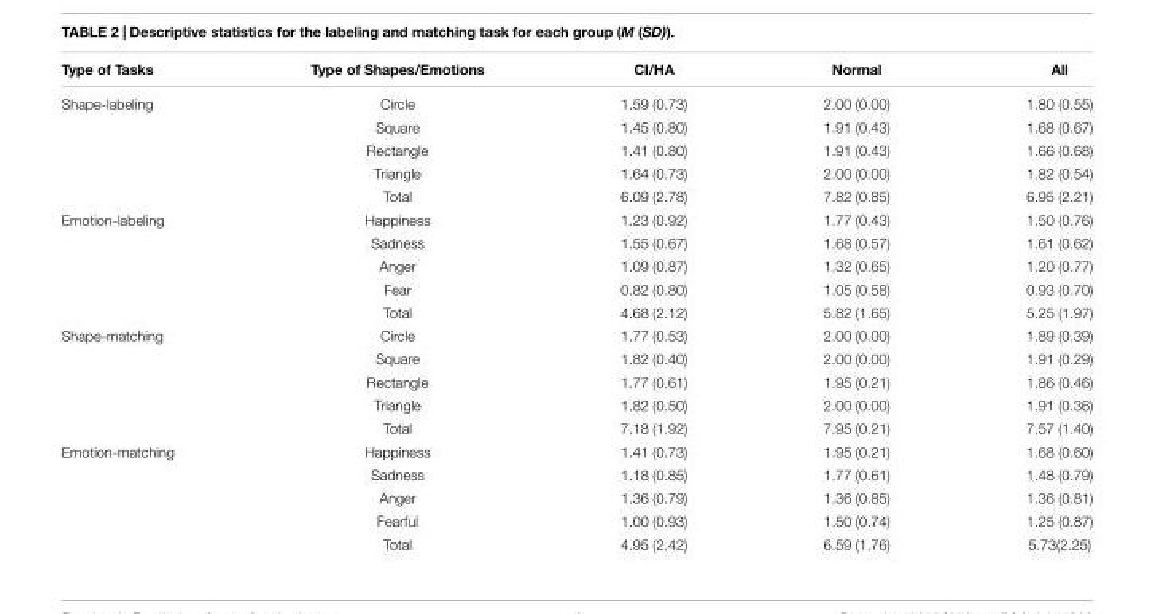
<table><thead><tr><td>Type of Tasks</td><td>Type of Shapes/Emotions</td><td>CI/HA</td><td>Normal</td><td>All</td></tr></thead><tbody><tr><td rowspan="5">Shape-labeling</td><td>Circle</td><td>1.59 (0.73)</td><td>2.00 (0.00)</td><td>1.80 (0.55)</td></tr><tr><td>Square</td><td>1.45 (0.80)</td><td>1.91 (0.43)</td><td>1.68 (0.67)</td></tr><tr><td>Rectangle</td><td>1.41 (0.80)</td><td>1.91 (0.43)</td><td>1.66 (0.68)</td></tr><tr><td>Triangle</td><td>1.64 (0.73)</td><td>2.00 (0.00)</td><td>1.82 (0.54)</td></tr><tr><td>Total</td><td>6.09 (2.78)</td><td>7.82 (0.85)</td><td>6.95 (2.21)</td></tr><tr><td rowspan="5">Emotion-labeling</td><td>Happiness</td><td>1.23 (0.92)</td><td>1.77 (0.43)</td><td>1.50 (0.76)</td></tr><tr><td>Sadness</td><td>1.55 (0.67)</td><td>1.68 (0.57)</td><td>1.61 (0.62)</td></tr><tr><td>Anger</td><td>1.09 (0.87)</td><td>1.32 (0.65)</td><td>1.20 (0.77)</td></tr><tr><td>Fear</td><td>0.82 (0.80)</td><td>1.05 (0.58)</td><td>0.93 (0.70)</td></tr><tr><td>Total</td><td>4.68 (2.12)</td><td>5.82 (1.65)</td><td>5.25 (1.97)</td></tr><tr><td rowspan="5">Shape-matching</td><td>Circle</td><td>1.77 (0.53)</td><td>2.00 (0.00)</td><td>1.89 (0.39)</td></tr><tr><td>Square</td><td>1.82 (0.40)</td><td>2.00 (0.00)</td><td>1.91 (0.29)</td></tr><tr><td>Rectangle</td><td>1.77 (0.61)</td><td>1.95 (0.21)</td><td>1.86 (0.46)</td></tr><tr><td>Triangle</td><td>1.82 (0.50)</td><td>2.00 (0.00)</td><td>1.91 (0.36)</td></tr><tr><td>Total</td><td>7.18 (1.92)</td><td>7.95 (0.21)</td><td>7.57 (1.40)</td></tr><tr><td rowspan="5">Emotion-matching</td><td>Happiness</td><td>1.41 (0.73)</td><td>1.95 (0.21)</td><td>1.68 (0.60)</td></tr><tr><td>Sadness</td><td>1.18 (0.85)</td><td>1.77 (0.61)</td><td>1.48 (0.79)</td></tr><tr><td>Anger</td><td>1.36 (0.79)</td><td>1.36 (0.85)</td><td>1.36 (0.81)</td></tr><tr><td>Fearful</td><td>1.00 (0.93)</td><td>1.50 (0.74)</td><td>1.25 (0.87)</td></tr><tr><td>Total</td><td>4.95 (2.42)</td><td>6.59 (1.76)</td><td>5.73(2.25)</td></tr></tbody></table>